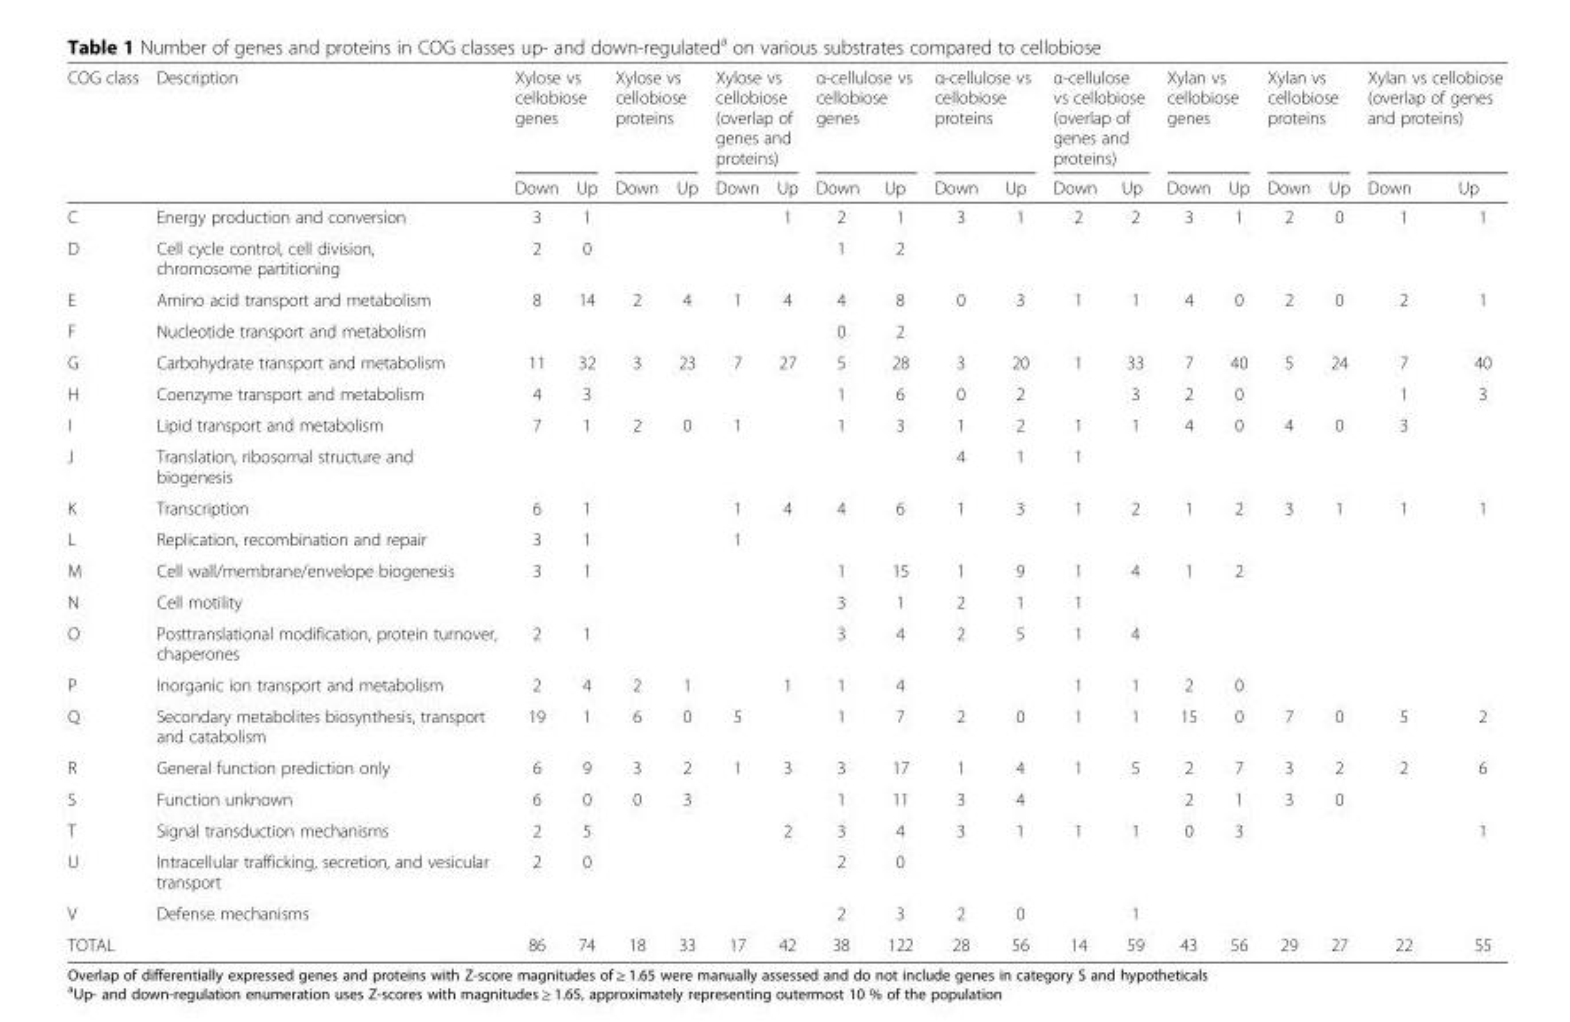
<table><thead><tr><td rowspan="2">COG class</td><td rowspan="2">Description</td><td colspan="2">Xylose vs cellobiose genes</td><td colspan="2">Xylose vs cellobiose proteins</td><td colspan="2">Xylose vs cellobiose (overlap of genes and proteins)</td><td colspan="2">α-cellulose vs cellobiose genes</td><td colspan="2">α-cellulose vs cellobiose proteins</td><td colspan="2">α-cellulose vs cellobiose (overlap of genes and proteins)</td><td colspan="2">Xylan vs cellobiose genes</td><td colspan="2">Xylan vs cellobiose proteins</td><td colspan="2">Xylan vs cellobiose (overlap of genes and proteins)</td></tr><tr><td>Down</td><td>Up</td><td>Down</td><td>Up</td><td>Down</td><td>Up</td><td>Down</td><td>Up</td><td>Down</td><td>Up</td><td>Down</td><td>Up</td><td>Down</td><td>Up</td><td>Down</td><td>Up</td><td>Down</td><td>Up</td></tr></thead><tbody><tr><td>C</td><td>Energy production and conversion</td><td>3</td><td>1</td><td></td><td></td><td></td><td>1</td><td>2</td><td>1</td><td>3</td><td>1</td><td>2</td><td>2</td><td>3</td><td>1</td><td>2</td><td>0</td><td>1</td><td>1</td></tr><tr><td>D</td><td>Cell cycle control, cell division, chromosome partitioning</td><td>2</td><td>0</td><td></td><td></td><td></td><td></td><td>1</td><td>2</td><td></td><td></td><td></td><td></td><td></td><td></td><td></td><td></td><td></td><td></td></tr><tr><td>E</td><td>Amino acid transport and metabolism</td><td>8</td><td>14</td><td>2</td><td>4</td><td>1</td><td>4</td><td>4</td><td>8</td><td>0</td><td>3</td><td>1</td><td>1</td><td>4</td><td>0</td><td>2</td><td>0</td><td>2</td><td>1</td></tr><tr><td>F</td><td>Nucleotide transport and metabolism</td><td></td><td></td><td></td><td></td><td></td><td></td><td>0</td><td>2</td><td></td><td></td><td></td><td></td><td></td><td></td><td></td><td></td><td></td><td></td></tr><tr><td>G</td><td>Carbohydrate transport and metabolism</td><td>11</td><td>32</td><td>3</td><td>23</td><td>7</td><td>27</td><td>5</td><td>28</td><td>3</td><td>20</td><td>1</td><td>33</td><td>7</td><td>40</td><td>5</td><td>24</td><td>7</td><td>40</td></tr><tr><td>H</td><td>Coenzyme transport and metabolism</td><td>4</td><td>3</td><td></td><td></td><td></td><td></td><td>1</td><td>6</td><td>0</td><td>2</td><td></td><td>3</td><td>2</td><td>0</td><td></td><td></td><td>1</td><td>3</td></tr><tr><td>I</td><td>Lipid transport and metabolism</td><td>7</td><td>1</td><td>2</td><td>0</td><td>1</td><td></td><td>1</td><td>3</td><td>1</td><td>2</td><td>1</td><td>1</td><td>4</td><td>0</td><td>4</td><td>0</td><td>3</td><td></td></tr><tr><td>J</td><td>Translation, ribosomal structure and biogenesis</td><td></td><td></td><td></td><td></td><td></td><td></td><td></td><td></td><td>4</td><td>1</td><td>1</td><td></td><td></td><td></td><td></td><td></td><td></td><td></td></tr><tr><td>K</td><td>Transcription</td><td>6</td><td>1</td><td></td><td></td><td>1</td><td>4</td><td>4</td><td>6</td><td>1</td><td>3</td><td>1</td><td>2</td><td>1</td><td>2</td><td>3</td><td>1</td><td>1</td><td>1</td></tr><tr><td>L</td><td>Replication, recombination and repair</td><td>3</td><td>1</td><td></td><td></td><td>1</td><td></td><td></td><td></td><td></td><td></td><td></td><td></td><td></td><td></td><td></td><td></td><td></td><td></td></tr><tr><td>M</td><td>Cell wall/membrane/envelope biogenesis</td><td>3</td><td>1</td><td></td><td></td><td></td><td></td><td>1</td><td>15</td><td>1</td><td>9</td><td>1</td><td>4</td><td>1</td><td>2</td><td></td><td></td><td></td><td></td></tr><tr><td>N</td><td>Cell motility</td><td></td><td></td><td></td><td></td><td></td><td></td><td>3</td><td>1</td><td>2</td><td>1</td><td>1</td><td></td><td></td><td></td><td></td><td></td><td></td><td></td></tr><tr><td>O</td><td>Posttranslational modification, protein turnover, chaperones</td><td>2</td><td>1</td><td></td><td></td><td></td><td></td><td>3</td><td>4</td><td>2</td><td>5</td><td>1</td><td>4</td><td></td><td></td><td></td><td></td><td></td><td></td></tr><tr><td>P</td><td>Inorganic ion transport and metabolism</td><td>2</td><td>4</td><td>2</td><td>1</td><td></td><td>1</td><td>1</td><td>4</td><td></td><td></td><td>1</td><td>1</td><td>2</td><td>0</td><td></td><td></td><td></td><td></td></tr><tr><td>Q</td><td>Secondary metabolites biosynthesis, transport and catabolism</td><td>19</td><td>1</td><td>6</td><td>0</td><td>5</td><td></td><td>1</td><td>7</td><td>2</td><td>0</td><td>1</td><td>1</td><td>15</td><td>0</td><td>7</td><td>0</td><td>5</td><td>2</td></tr><tr><td>R</td><td>General function prediction only</td><td>6</td><td>9</td><td>3</td><td>2</td><td>1</td><td>3</td><td>3</td><td>17</td><td>1</td><td>4</td><td>1</td><td>5</td><td>2</td><td>7</td><td>3</td><td>2</td><td>2</td><td>6</td></tr><tr><td>S</td><td>Function unknown</td><td>6</td><td>0</td><td>0</td><td>3</td><td></td><td></td><td>1</td><td>11</td><td>3</td><td>4</td><td></td><td></td><td>2</td><td>1</td><td>3</td><td>0</td><td></td><td></td></tr><tr><td>T</td><td>Signal transduction mechanisms</td><td>2</td><td>5</td><td></td><td></td><td></td><td>2</td><td>3</td><td>4</td><td>3</td><td>1</td><td>1</td><td>1</td><td>0</td><td>3</td><td></td><td></td><td></td><td>1</td></tr><tr><td>U</td><td>Intracellular trafficking, secretion, and vesicular transport</td><td>2</td><td>0</td><td></td><td></td><td></td><td></td><td>2</td><td>0</td><td></td><td></td><td></td><td></td><td></td><td></td><td></td><td></td><td></td><td></td></tr><tr><td>V</td><td>Defense mechanisms</td><td></td><td></td><td></td><td></td><td></td><td></td><td>2</td><td>3</td><td>2</td><td>0</td><td></td><td>1</td><td></td><td></td><td></td><td></td><td></td><td></td></tr><tr><td>TOTAL</td><td></td><td>86</td><td>74</td><td>18</td><td>33</td><td>17</td><td>42</td><td>38</td><td>122</td><td>28</td><td>56</td><td>14</td><td>59</td><td>43</td><td>56</td><td>29</td><td>27</td><td>22</td><td>55</td></tr></tbody></table>